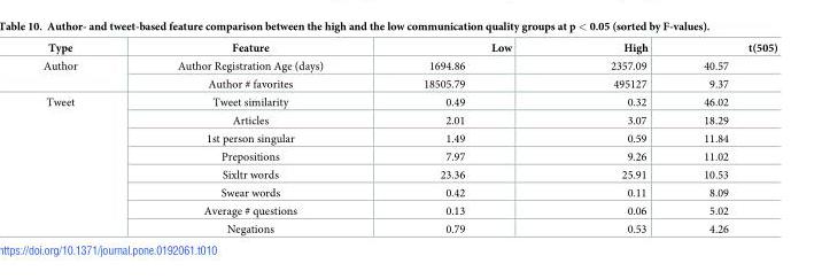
<table><thead><tr><td>Type</td><td>Feature</td><td>Low</td><td>High</td><td>t(505)</td></tr></thead><tbody><tr><td rowspan="2">Author</td><td>Author Registration Age (days)</td><td>1694.86</td><td>2357.09</td><td>40.57</td></tr><tr><td>Author # favorites</td><td>18505.79</td><td>495127</td><td>9.37</td></tr><tr><td rowspan="8">Tweet</td><td>Tweet similarity</td><td>0.49</td><td>0.32</td><td>46.02</td></tr><tr><td>Articles</td><td>2.01</td><td>3.07</td><td>18.29</td></tr><tr><td>1st person singular</td><td>1.49</td><td>0.59</td><td>11.84</td></tr><tr><td>Prepositions</td><td>7.97</td><td>9.26</td><td>11.02</td></tr><tr><td>Sixltr words</td><td>23.36</td><td>25.91</td><td>10.53</td></tr><tr><td>Swear words</td><td>0.42</td><td>0.11</td><td>8.09</td></tr><tr><td>Average # questions</td><td>0.13</td><td>0.06</td><td>5.02</td></tr><tr><td>Negations</td><td>0.79</td><td>0.53</td><td>4.26</td></tr></tbody></table>